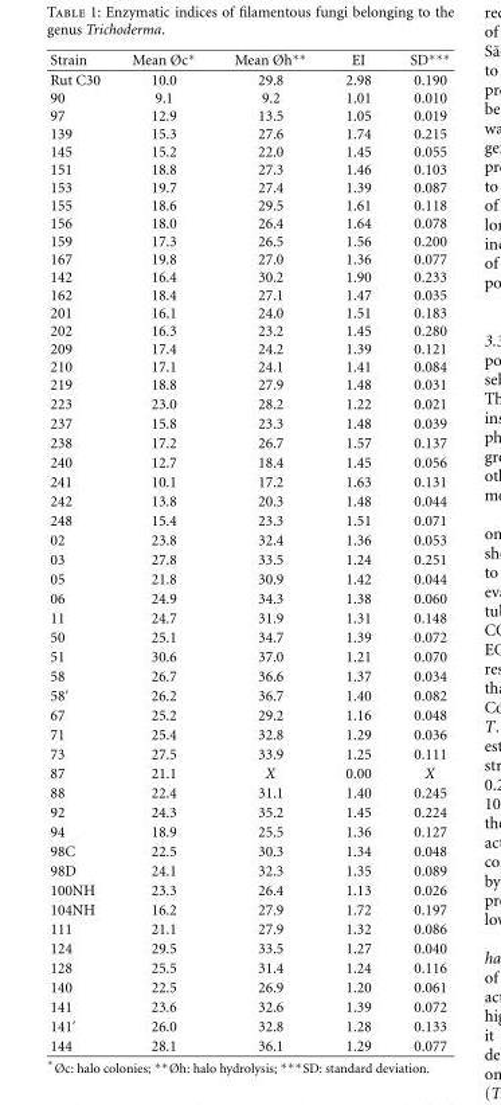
<table><thead><tr><td>Strain</td><td>Mean Øc∗</td><td>Mean Øh∗∗</td><td>EI</td><td>SD∗∗∗</td></tr></thead><tbody><tr><td>Rut C30</td><td>10.0</td><td>29.8</td><td>2.98</td><td>0.190</td></tr><tr><td>90</td><td>9.1</td><td>9.2</td><td>1.01</td><td>0.010</td></tr><tr><td>97</td><td>12.9</td><td>13.5</td><td>1.05</td><td>0.019</td></tr><tr><td>139</td><td>15.3</td><td>27.6</td><td>1.74</td><td>0.215</td></tr><tr><td>145</td><td>15.2</td><td>22.0</td><td>1.45</td><td>0.055</td></tr><tr><td>151</td><td>18.8</td><td>27.3</td><td>1.46</td><td>0.103</td></tr><tr><td>153</td><td>19.7</td><td>27.4</td><td>1.39</td><td>0.087</td></tr><tr><td>155</td><td>18.6</td><td>29.5</td><td>1.61</td><td>0.118</td></tr><tr><td>156</td><td>18.0</td><td>26.4</td><td>1.64</td><td>0.078</td></tr><tr><td>159</td><td>17.3</td><td>26.5</td><td>1.56</td><td>0.200</td></tr><tr><td>167</td><td>19.8</td><td>27.0</td><td>1.36</td><td>0.077</td></tr><tr><td>142</td><td>16.4</td><td>30.2</td><td>1.90</td><td>0.233</td></tr><tr><td>162</td><td>18.4</td><td>27.1</td><td>1.47</td><td>0.035</td></tr><tr><td>201</td><td>16.1</td><td>24.0</td><td>1.51</td><td>0.183</td></tr><tr><td>202</td><td>16.3</td><td>23.2</td><td>1.45</td><td>0.280</td></tr><tr><td>209</td><td>17.4</td><td>24.2</td><td>1.39</td><td>0.121</td></tr><tr><td>210</td><td>17.1</td><td>24.1</td><td>1.41</td><td>0.084</td></tr><tr><td>219</td><td>18.8</td><td>27.9</td><td>1.48</td><td>0.031</td></tr><tr><td>223</td><td>23.0</td><td>28.2</td><td>1.22</td><td>0.021</td></tr><tr><td>237</td><td>15.8</td><td>23.3</td><td>1.48</td><td>0.039</td></tr><tr><td>238</td><td>17.2</td><td>26.7</td><td>1.57</td><td>0.137</td></tr><tr><td>240</td><td>12.7</td><td>18.4</td><td>1.45</td><td>0.056</td></tr><tr><td>241</td><td>10.1</td><td>17.2</td><td>1.63</td><td>0.131</td></tr><tr><td>242</td><td>13.8</td><td>20.3</td><td>1.48</td><td>0.044</td></tr><tr><td>248</td><td>15.4</td><td>23.3</td><td>1.51</td><td>0.071</td></tr><tr><td>02</td><td>23.8</td><td>32.4</td><td>1.36</td><td>0.053</td></tr><tr><td>03</td><td>27.8</td><td>33.5</td><td>1.24</td><td>0.251</td></tr><tr><td>05</td><td>21.8</td><td>30.9</td><td>1.42</td><td>0.044</td></tr><tr><td>06</td><td>24.9</td><td>34.3</td><td>1.38</td><td>0.060</td></tr><tr><td>11</td><td>24.7</td><td>31.9</td><td>1.31</td><td>0.148</td></tr><tr><td>50</td><td>25.1</td><td>34.7</td><td>1.39</td><td>0.072</td></tr><tr><td>51</td><td>30.6</td><td>37.0</td><td>1.21</td><td>0.070</td></tr><tr><td>58</td><td>26.7</td><td>36.6</td><td>1.37</td><td>0.034</td></tr><tr><td>58′</td><td>26.2</td><td>36.7</td><td>1.40</td><td>0.082</td></tr><tr><td>67</td><td>25.2</td><td>29.2</td><td>1.16</td><td>0.048</td></tr><tr><td>71</td><td>25.4</td><td>32.8</td><td>1.29</td><td>0.036</td></tr><tr><td>73</td><td>27.5</td><td>33.9</td><td>1.25</td><td>0.111</td></tr><tr><td>87</td><td>21.1</td><td>X</td><td>0.00</td><td>X</td></tr><tr><td>88</td><td>22.4</td><td>31.1</td><td>1.40</td><td>0.245</td></tr><tr><td>92</td><td>24.3</td><td>35.2</td><td>1.45</td><td>0.224</td></tr><tr><td>94</td><td>18.9</td><td>25.5</td><td>1.36</td><td>0.127</td></tr><tr><td>98C</td><td>22.5</td><td>30.3</td><td>1.34</td><td>0.048</td></tr><tr><td>98D</td><td>24.1</td><td>32.3</td><td>1.35</td><td>0.089</td></tr><tr><td>100NH</td><td>23.3</td><td>26.4</td><td>1.13</td><td>0.026</td></tr><tr><td>104NH</td><td>16.2</td><td>27.9</td><td>1.72</td><td>0.197</td></tr><tr><td>111</td><td>21.1</td><td>27.9</td><td>1.32</td><td>0.086</td></tr><tr><td>124</td><td>29.5</td><td>33.5</td><td>1.27</td><td>0.040</td></tr><tr><td>128</td><td>25.5</td><td>31.4</td><td>1.24</td><td>0.116</td></tr><tr><td>140</td><td>22.5</td><td>26.9</td><td>1.20</td><td>0.061</td></tr><tr><td>141</td><td>23.6</td><td>32.6</td><td>1.39</td><td>0.072</td></tr><tr><td>141′</td><td>26.0</td><td>32.8</td><td>1.28</td><td>0.133</td></tr><tr><td>144</td><td>28.1</td><td>36.1</td><td>1.29</td><td>0.077</td></tr></tbody></table>